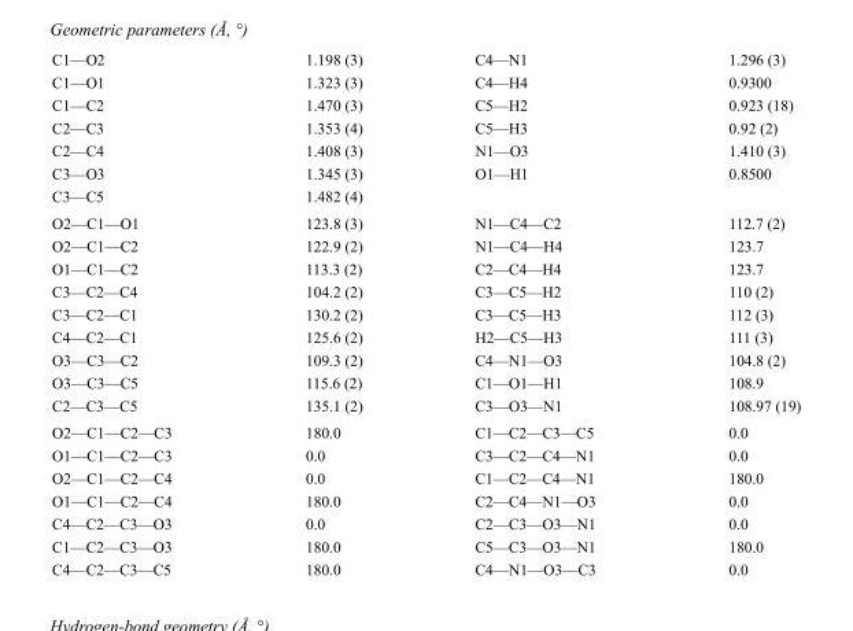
<table><tbody><tr><td>C1—O2</td><td>1.198 (3)</td><td>C4—N1</td><td>1.296 (3)</td></tr><tr><td>C1—O1</td><td>1.323 (3)</td><td>C4—H4</td><td>0.9300</td></tr><tr><td>C1—C2</td><td>1.470 (3)</td><td>C5—H2</td><td>0.923 (18)</td></tr><tr><td>C2—C3</td><td>1.353 (4)</td><td>C5—H3</td><td>0.92 (2)</td></tr><tr><td>C2—C4</td><td>1.408 (3)</td><td>N1—O3</td><td>1.410 (3)</td></tr><tr><td>C3—O3</td><td>1.345 (3)</td><td>O1—H1</td><td>0.8500</td></tr><tr><td>C3—C5</td><td>1.482 (4)</td><td></td><td></td></tr><tr><td>O2—C1—O1</td><td>123.8 (3)</td><td>N1—C4—C2</td><td>112.7 (2)</td></tr><tr><td>O2—C1—C2</td><td>122.9 (2)</td><td>N1—C4—H4</td><td>123.7</td></tr><tr><td>O1—C1—C2</td><td>113.3 (2)</td><td>C2—C4—H4</td><td>123.7</td></tr><tr><td>C3—C2—C4</td><td>104.2 (2)</td><td>C3—C5—H2</td><td>110 (2)</td></tr><tr><td>C3—C2—C1</td><td>130.2 (2)</td><td>C3—C5—H3</td><td>112 (3)</td></tr><tr><td>C4—C2—C1</td><td>125.6 (2)</td><td>H2—C5—H3</td><td>111 (3)</td></tr><tr><td>O3—C3—C2</td><td>109.3 (2)</td><td>C4—N1—O3</td><td>104.8 (2)</td></tr><tr><td>O3—C3—C5</td><td>115.6 (2)</td><td>C1—O1—H1</td><td>108.9</td></tr><tr><td>C2—C3—C5</td><td>135.1 (2)</td><td>C3—O3—N1</td><td>108.97 (19)</td></tr><tr><td>O2—C1—C2—C3</td><td>180.0</td><td>C1—C2—C3—C5</td><td>0.0</td></tr><tr><td>O1—C1—C2—C3</td><td>0.0</td><td>C3—C2—C4—N1</td><td>0.0</td></tr><tr><td>O2—C1—C2—C4</td><td>0.0</td><td>C1—C2—C4—N1</td><td>180.0</td></tr><tr><td>O1—C1—C2—C4</td><td>180.0</td><td>C2—C4—N1—O3</td><td>0.0</td></tr><tr><td>C4—C2—C3—O3</td><td>0.0</td><td>C2—C3—O3—N1</td><td>0.0</td></tr><tr><td>C1—C2—C3—O3</td><td>180.0</td><td>C5—C3—O3—N1</td><td>180.0</td></tr><tr><td>C4—C2—C3—C5</td><td>180.0</td><td>C4—N1—O3—C3</td><td>0.0</td></tr></tbody></table>